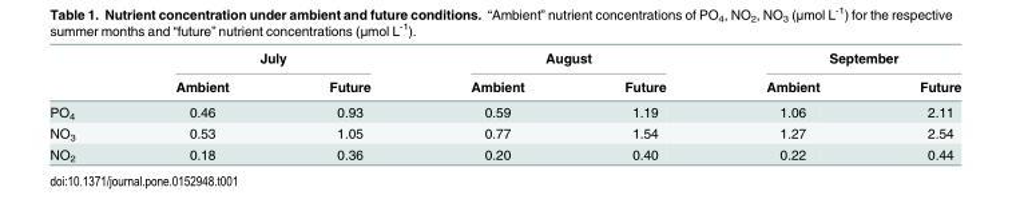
<table><thead><tr><td rowspan="2"></td><td colspan="2">July</td><td colspan="2">August</td><td colspan="2">September</td></tr><tr><td>Ambient</td><td>Future</td><td>Ambient</td><td>Future</td><td>Ambient</td><td>Future</td></tr></thead><tbody><tr><td>PO<sub>4</sub></td><td>0.46</td><td>0.93</td><td>0.59</td><td>1.19</td><td>1.06</td><td>2.11</td></tr><tr><td>NO<sub>3</sub></td><td>0.53</td><td>1.05</td><td>0.77</td><td>1.54</td><td>1.27</td><td>2.54</td></tr><tr><td>NO<sub>2</sub></td><td>0.18</td><td>0.36</td><td>0.20</td><td>0.40</td><td>0.22</td><td>0.44</td></tr></tbody></table>